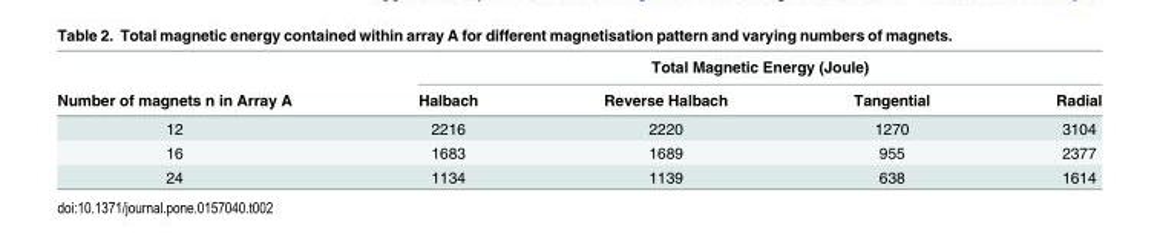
<table><thead><tr><td rowspan="2">Number of magnets n in Array A</td><td colspan="4">Total Magnetic Energy (Joule)</td></tr><tr><td>Halbach</td><td>Reverse Halbach</td><td>Tangential</td><td>Radial</td></tr></thead><tbody><tr><td>12</td><td>2216</td><td>2220</td><td>1270</td><td>3104</td></tr><tr><td>16</td><td>1683</td><td>1689</td><td>955</td><td>2377</td></tr><tr><td>24</td><td>1134</td><td>1139</td><td>638</td><td>1614</td></tr></tbody></table>